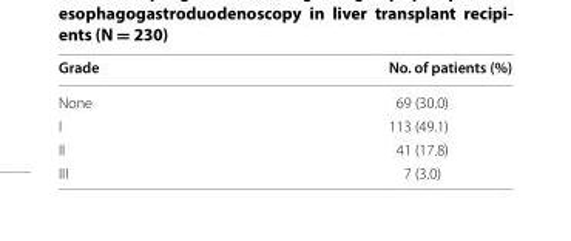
<table><thead><tr><td>Grade</td><td>No. of patients (%)</td></tr></thead><tbody><tr><td>None</td><td>69 (30.0)</td></tr><tr><td>I</td><td>113 (49.1)</td></tr><tr><td>II</td><td>41 (17.8)</td></tr><tr><td>III</td><td>7 (3.0)</td></tr></tbody></table>